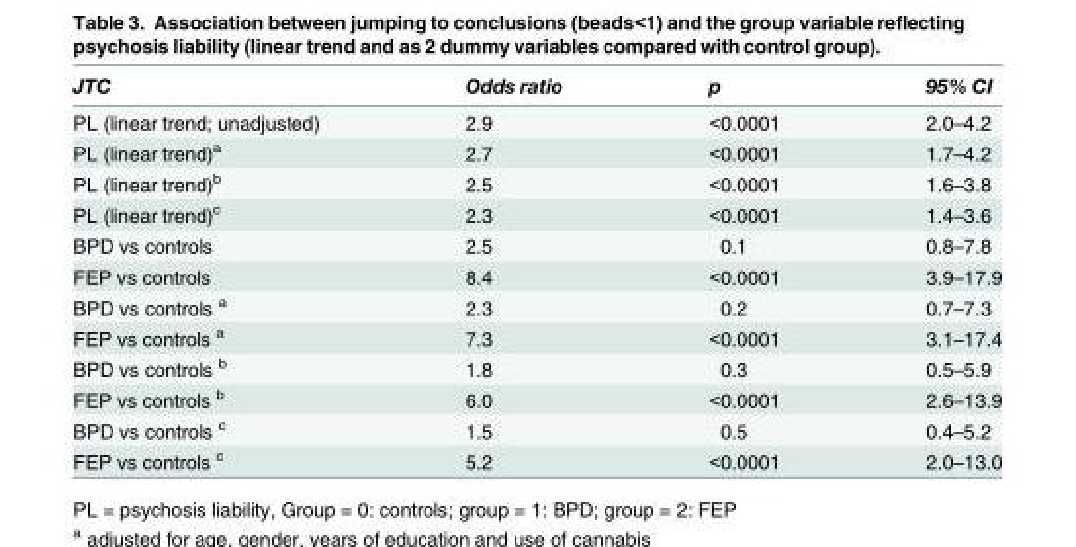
<table><thead><tr><td>JTC</td><td>Odds ratio</td><td>p</td><td>95% CI</td></tr></thead><tbody><tr><td>PL (linear trend; unadjusted)</td><td>2.9</td><td>&lt;0.0001</td><td>2.0–4.2</td></tr><tr><td>PL (linear trend)<sup>a</sup></td><td>2.7</td><td>&lt;0.0001</td><td>1.7–4.2</td></tr><tr><td>PL (linear trend)<sup>b</sup></td><td>2.5</td><td>&lt;0.0001</td><td>1.6–3.8</td></tr><tr><td>PL (linear trend)<sup>c</sup></td><td>2.3</td><td>&lt;0.0001</td><td>1.4–3.6</td></tr><tr><td>BPD vs controls</td><td>2.5</td><td>0.1</td><td>0.8–7.8</td></tr><tr><td>FEP vs controls</td><td>8.4</td><td>&lt;0.0001</td><td>3.9–17.9</td></tr><tr><td>BPD vs controls <sup>a</sup></td><td>2.3</td><td>0.2</td><td>0.7–7.3</td></tr><tr><td>FEP vs controls <sup>a</sup></td><td>7.3</td><td>&lt;0.0001</td><td>3.1–17.4</td></tr><tr><td>BPD vs controls <sup>b</sup></td><td>1.8</td><td>0.3</td><td>0.5–5.9</td></tr><tr><td>FEP vs controls <sup>b</sup></td><td>6.0</td><td>&lt;0.0001</td><td>2.6–13.9</td></tr><tr><td>BPD vs controls <sup>c</sup></td><td>1.5</td><td>0.5</td><td>0.4–5.2</td></tr><tr><td>FEP vs controls <sup>c</sup></td><td>5.2</td><td>&lt;0.0001</td><td>2.0–13.0</td></tr></tbody></table>